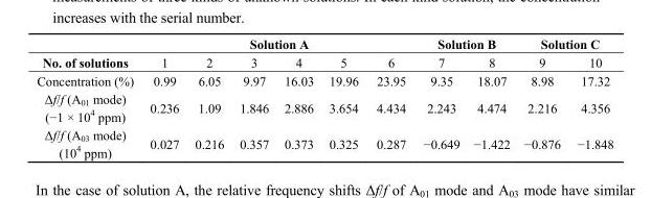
<table><thead><tr><td rowspan="2">No. of solutions</td><td colspan="6">Solution A</td><td colspan="2">Solution B</td><td colspan="2">Solution C</td></tr><tr><td>1</td><td>2</td><td>3</td><td>4</td><td>5</td><td>6</td><td>7</td><td>8</td><td>9</td><td>10</td></tr></thead><tbody><tr><td>Concentration (%)</td><td>0.99</td><td>6.05</td><td>9.97</td><td>16.03</td><td>19.96</td><td>23.95</td><td>9.35</td><td>18.07</td><td>8.98</td><td>17.32</td></tr><tr><td>Δf/f (A<sub>01</sub> mode) (−1 × 10<sup>4</sup> ppm)</td><td>0.236</td><td>1.09</td><td>1.846</td><td>2.886</td><td>3.654</td><td>4.434</td><td>2.243</td><td>4.474</td><td>2.216</td><td>4.356</td></tr><tr><td>Δf/f (A<sub>03</sub> mode) (10<sup>4</sup> ppm)</td><td>0.027</td><td>0.216</td><td>0.357</td><td>0.373</td><td>0.325</td><td>0.287</td><td>−0.649</td><td>−1.422</td><td>−0.876</td><td>−1.848</td></tr></tbody></table>